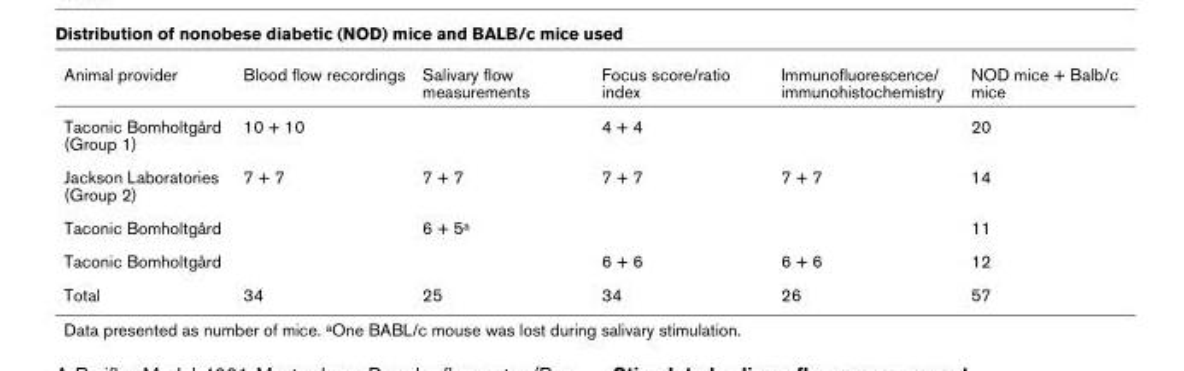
<table><thead><tr><td>Animal provider</td><td>Blood flow recordings</td><td>Salivary flow measurements</td><td>Focus score/ratio index</td><td>Immunofluorescence/ immunohistochemistry</td><td>NOD mice + Balb/c mice</td></tr></thead><tbody><tr><td>Taconic Bomholtgård (Group 1)</td><td>10 + 10</td><td></td><td>4 + 4</td><td></td><td>20</td></tr><tr><td>Jackson Laboratories (Group 2)</td><td>7 + 7</td><td>7 + 7</td><td>7 + 7</td><td>7 + 7</td><td>14</td></tr><tr><td>Taconic Bomholtgård</td><td></td><td>6 + 5<sup>a</sup></td><td></td><td></td><td>11</td></tr><tr><td>Taconic Bomholtgård</td><td></td><td></td><td>6 + 6</td><td>6 + 6</td><td>12</td></tr><tr><td>Total</td><td>34</td><td>25</td><td>34</td><td>26</td><td>57</td></tr></tbody></table>